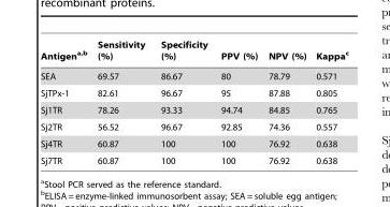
<table><thead><tr><td>Antigen<sup>a,</sup>b</td><td>Sensitivity (%)</td><td>Specificity (%)</td><td>PPV (%)</td><td>NPV (%)</td><td>Kappa<sup>c</sup></td></tr></thead><tbody><tr><td>SEA</td><td>69.57</td><td>86.67</td><td>80</td><td>78.79</td><td>0.571</td></tr><tr><td>SjTPx-1</td><td>82.61</td><td>96.67</td><td>95</td><td>87.88</td><td>0.805</td></tr><tr><td>Sj1TR</td><td>78.26</td><td>93.33</td><td>94.74</td><td>84.85</td><td>0.765</td></tr><tr><td>Sj2TR</td><td>56.52</td><td>96.67</td><td>92.85</td><td>74.36</td><td>0.557</td></tr><tr><td>Sj4TR</td><td>60.87</td><td>100</td><td>100</td><td>76.92</td><td>0.638</td></tr><tr><td>Sj7TR</td><td>60.87</td><td>100</td><td>100</td><td>76.92</td><td>0.638</td></tr></tbody></table>